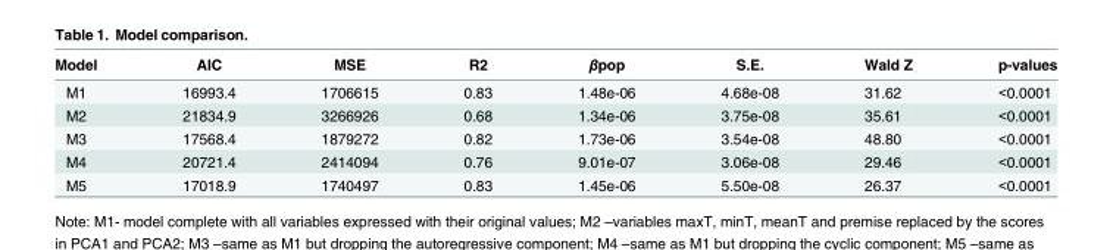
<table><thead><tr><td>Model</td><td>AIC</td><td>MSE</td><td>R2</td><td>βpop</td><td>S.E.</td><td>Wald Z</td><td>p-values</td></tr></thead><tbody><tr><td>M1</td><td>16993.4</td><td>1706615</td><td>0.83</td><td>1.48e-06</td><td>4.68e-08</td><td>31.62</td><td>&lt;0.0001</td></tr><tr><td>M2</td><td>21834.9</td><td>3266926</td><td>0.68</td><td>1.34e-06</td><td>3.75e-08</td><td>35.61</td><td>&lt;0.0001</td></tr><tr><td>M3</td><td>17568.4</td><td>1879272</td><td>0.82</td><td>1.73e-06</td><td>3.54e-08</td><td>48.80</td><td>&lt;0.0001</td></tr><tr><td>M4</td><td>20721.4</td><td>2414094</td><td>0.76</td><td>9.01e-07</td><td>3.06e-08</td><td>29.46</td><td>&lt;0.0001</td></tr><tr><td>M5</td><td>17018.9</td><td>1740497</td><td>0.83</td><td>1.45e-06</td><td>5.50e-08</td><td>26.37</td><td>&lt;0.0001</td></tr></tbody></table>